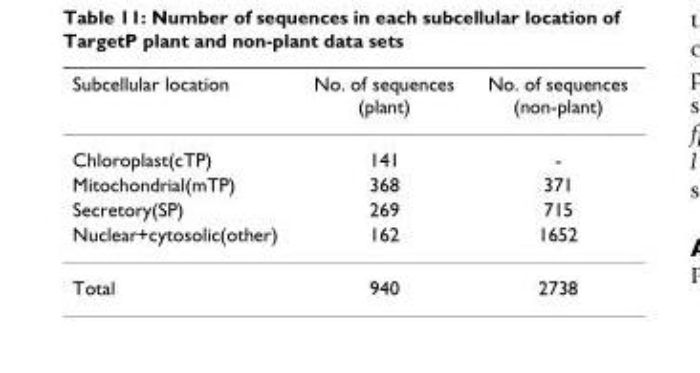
<table><thead><tr><td>Subcellular location</td><td>No. of sequences (plant)</td><td>No. of sequences (non-plant)</td></tr></thead><tbody><tr><td>Chloroplast(cTP)</td><td>141</td><td>-</td></tr><tr><td>Mitochondrial(mTP)</td><td>368</td><td>371</td></tr><tr><td>Secretory(SP)</td><td>269</td><td>715</td></tr><tr><td>Nuclear+cytosolic(other)</td><td>162</td><td>1652</td></tr><tr><td>Total</td><td>940</td><td>2738</td></tr></tbody></table>